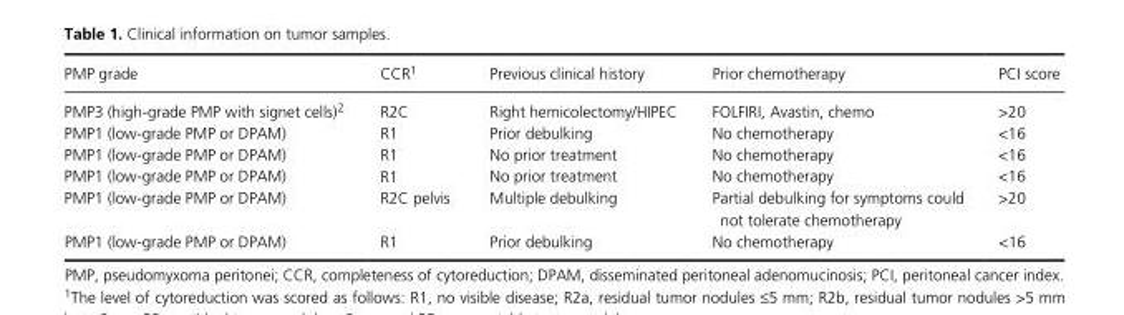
<table><thead><tr><td>PMP grade</td><td>CCR1</td><td>Previous clinical history</td><td>Prior chemotherapy</td><td>PCI score</td></tr></thead><tbody><tr><td>PMP3 (high- grade PMP with signet cells)2</td><td>R2C</td><td>Right hemicolectomy/HIPEC</td><td>FOLFIRI, Avastin, chemo</td><td>&gt;20</td></tr><tr><td>PMP1 (low- grade PMP or DPAM)</td><td>R1</td><td>Prior debulking</td><td>No chemotherapy</td><td>&lt;16</td></tr><tr><td>PMP1 (low- grade PMP or DPAM)</td><td>R1</td><td>No prior treatment</td><td>No chemotherapy</td><td>&lt;16</td></tr><tr><td>PMP1 (low- grade PMP or DPAM)</td><td>R1</td><td>No prior treatment</td><td>No chemotherapy</td><td>&lt;16</td></tr><tr><td>PMP1 (low- grade PMP or DPAM)</td><td>R2C pelvis</td><td>Multiple debulking</td><td>Partial debulking for symptoms could not tolerate chemotherapy</td><td>&gt;20</td></tr><tr><td>PMP1 (low- grade PMP or DPAM)</td><td>R1</td><td>Prior debulking</td><td>No chemotherapy</td><td>&lt;16</td></tr></tbody></table>